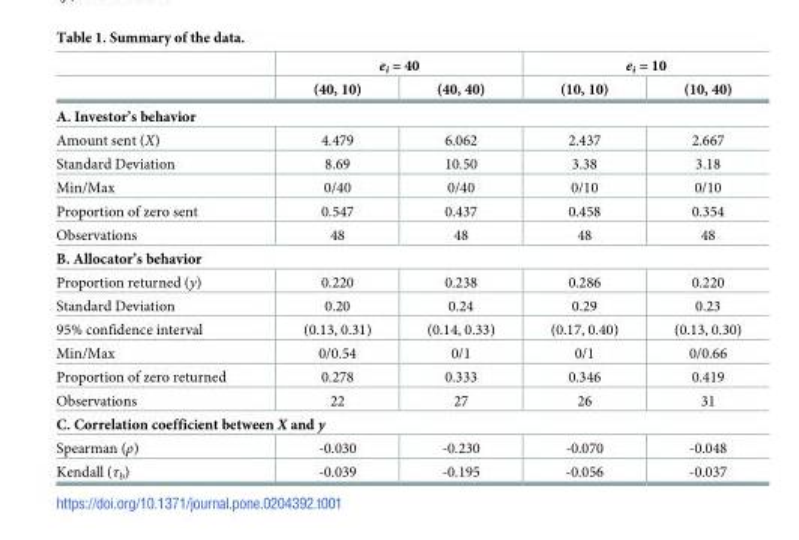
<table><thead><tr><td rowspan="2"></td><td colspan="2">e<sub>i</sub> = 40</td><td colspan="2">e<sub>i</sub> = 10</td></tr><tr><td>(40, 10)</td><td>(40, 40)</td><td>(10, 10)</td><td>(10, 40)</td></tr></thead><tbody><tr><td colspan="5">A. Investor’s behavior</td></tr><tr><td>Amount sent (X)</td><td>4.479</td><td>6.062</td><td>2.437</td><td>2.667</td></tr><tr><td>Standard Deviation</td><td>8.69</td><td>10.50</td><td>3.38</td><td>3.18</td></tr><tr><td>Min/Max</td><td>0/40</td><td>0/40</td><td>0/10</td><td>0/10</td></tr><tr><td>Proportion of zero sent</td><td>0.547</td><td>0.437</td><td>0.458</td><td>0.354</td></tr><tr><td>Observations</td><td>48</td><td>48</td><td>48</td><td>48</td></tr><tr><td colspan="5">B. Allocator’s behavior</td></tr><tr><td>Proportion returned (y)</td><td>0.220</td><td>0.238</td><td>0.286</td><td>0.220</td></tr><tr><td>Standard Deviation</td><td>0.20</td><td>0.24</td><td>0.29</td><td>0.23</td></tr><tr><td>95% confidence interval</td><td>(0.13, 0.31)</td><td>(0.14, 0.33)</td><td>(0.17, 0.40)</td><td>(0.13, 0.30)</td></tr><tr><td>Min/Max</td><td>0/0.54</td><td>0/1</td><td>0/1</td><td>0/0.66</td></tr><tr><td>Proportion of zero returned</td><td>0.278</td><td>0.333</td><td>0.346</td><td>0.419</td></tr><tr><td>Observations</td><td>22</td><td>27</td><td>26</td><td>31</td></tr><tr><td colspan="5">C. Correlation coefficient between X and y</td></tr><tr><td>Spearman (ρ)</td><td>-0.030</td><td>-0.230</td><td>-0.070</td><td>-0.048</td></tr><tr><td>Kendall (τ<sub>b</sub>)</td><td>-0.039</td><td>-0.195</td><td>-0.056</td><td>-0.037</td></tr></tbody></table>